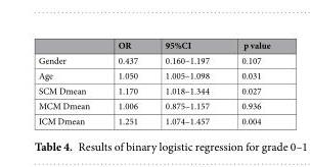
<table><thead><tr><td></td><td>OR</td><td>95%CI</td><td>p value</td></tr></thead><tbody><tr><td>Gender</td><td>0.437</td><td>0.160–1.197</td><td>0.107</td></tr><tr><td>Age</td><td>1.050</td><td>1.005–1.098</td><td>0.031</td></tr><tr><td>SCM Dmean</td><td>1.170</td><td>1.018–1.344</td><td>0.027</td></tr><tr><td>MCM Dmean</td><td>1.006</td><td>0.875–1.157</td><td>0.936</td></tr><tr><td>ICM Dmean</td><td>1.251</td><td>1.074–1.457</td><td>0.004</td></tr></tbody></table>